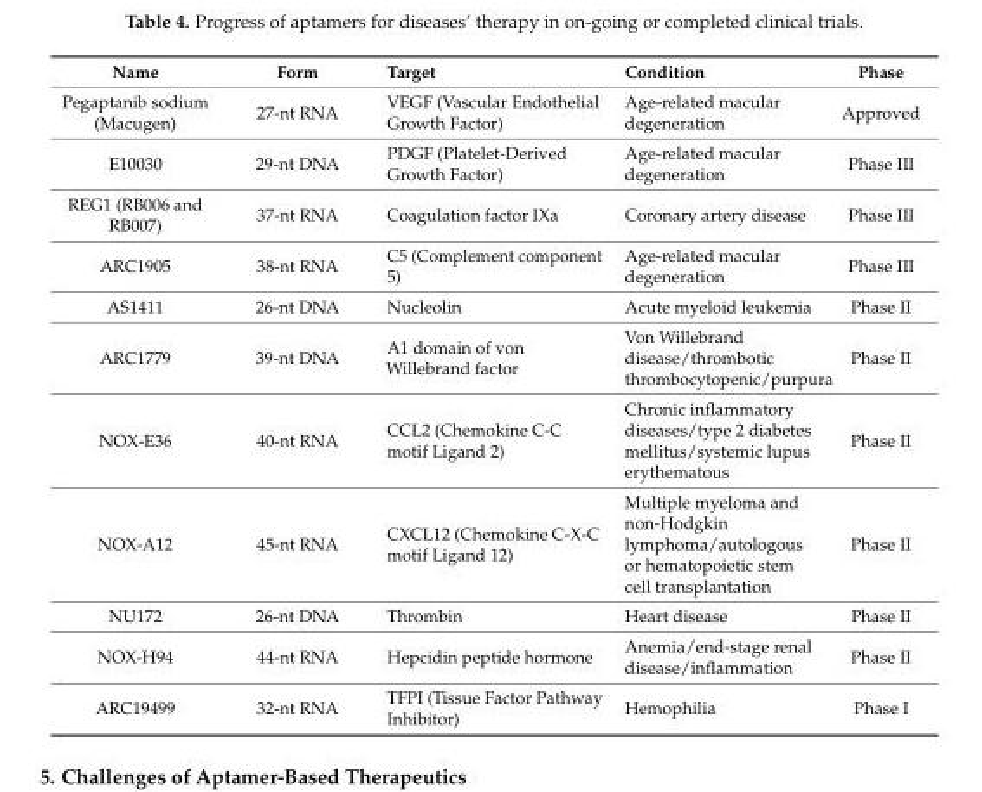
<table><thead><tr><td>Name</td><td>Form</td><td>Target</td><td>Condition</td><td>Phase</td></tr></thead><tbody><tr><td>Pegaptanib sodium (Macugen)</td><td>27-nt RNA</td><td>VEGF (Vascular Endothelial Growth Factor)</td><td>Age-related macular degeneration</td><td>Approved</td></tr><tr><td>E10030</td><td>29-nt DNA</td><td>PDGF (Platelet-Derived Growth Factor)</td><td>Age-related macular degeneration</td><td>Phase III</td></tr><tr><td>REG1 (RB006 and RB007)</td><td>37-nt RNA</td><td>Coagulation factor IXa</td><td>Coronary artery disease</td><td>Phase III</td></tr><tr><td>ARC1905</td><td>38-nt RNA</td><td>C5 (Complement component 5)</td><td>Age-related macular degeneration</td><td>Phase III</td></tr><tr><td>AS1411</td><td>26-nt DNA</td><td>Nucleolin</td><td>Acute myeloid leukemia</td><td>Phase II</td></tr><tr><td>ARC1779</td><td>39-nt DNA</td><td>A1 domain of von Willebrand factor</td><td>Von Willebrand disease/thrombotic thrombocytopenic/purpura</td><td>Phase II</td></tr><tr><td>NOX-E36</td><td>40-nt RNA</td><td>CCL2 (Chemokine C-C motif Ligand 2)</td><td>Chronic inflammatory diseases/type 2 diabetes mellitus/systemic lupus erythematous</td><td>Phase II</td></tr><tr><td>NOX-A12</td><td>45-nt RNA</td><td>CXCL12 (Chemokine C-X-C motif Ligand 12)</td><td>Multiple myeloma and non-Hodgkin lymphoma/autologous or hematopoietic stem cell transplantation</td><td>Phase II</td></tr><tr><td>NU172</td><td>26-nt DNA</td><td>Thrombin</td><td>Heart disease</td><td>Phase II</td></tr><tr><td>NOX-H94</td><td>44-nt RNA</td><td>Hepcidin peptide hormone</td><td>Anemia/end-stage renal disease/inflammation</td><td>Phase II</td></tr><tr><td>ARC19499</td><td>32-nt RNA</td><td>TFPI (Tissue Factor Pathway Inhibitor)</td><td>Hemophilia</td><td>Phase I</td></tr></tbody></table>